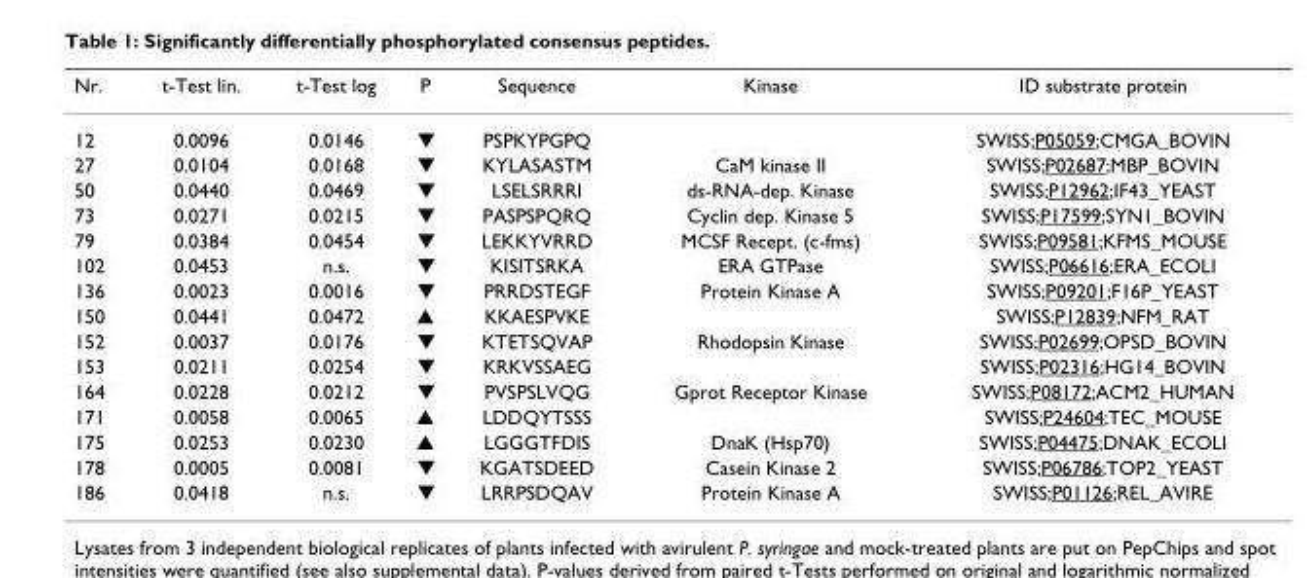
<table><thead><tr><td>Nr.</td><td>t-Test lin.</td><td>t-Test log</td><td>P</td><td>Sequence</td><td>Kinase</td><td>ID substrate protein</td></tr></thead><tbody><tr><td>12</td><td>0.0096</td><td>0.0146</td><td>▼</td><td>PSPKYPGPQ</td><td></td><td>SWISS;P05059;CMGA_BOVIN</td></tr><tr><td>27</td><td>0.0104</td><td>0.0168</td><td>▼</td><td>KYLASASTM</td><td>CaM kinase II</td><td>SWISS;P02687;MBP_BOVIN</td></tr><tr><td>50</td><td>0.0440</td><td>0.0469</td><td>▼</td><td>LSELSRRRI</td><td>ds-RNA-dep. Kinase</td><td>SWISS;P12962;IF43_YEAST</td></tr><tr><td>73</td><td>0.0271</td><td>0.0215</td><td>▼</td><td>PASPSPQRQ</td><td>Cyclin dep. Kinase 5</td><td>SWISS;P17599;SYN1_BOVIN</td></tr><tr><td>79</td><td>0.0384</td><td>0.0454</td><td>▼</td><td>LEKKYVRRD</td><td>MCSF Recept. (c-fms)</td><td>SWISS;P09581;KFMS_MOUSE</td></tr><tr><td>102</td><td>0.0453</td><td>n.s.</td><td>▼</td><td>KISITSRKA</td><td>ERA GTPase</td><td>SWISS;P06616;ERA_ECOLI</td></tr><tr><td>136</td><td>0.0023</td><td>0.0016</td><td>▼</td><td>PRRDSTEGF</td><td>Protein Kinase A</td><td>SWISS;P09201;F16P_YEAST</td></tr><tr><td>150</td><td>0.0441</td><td>0.0472</td><td>▲</td><td>KKAESPVKE</td><td></td><td>SWISS;P12839;NFM_RAT</td></tr><tr><td>152</td><td>0.0037</td><td>0.0176</td><td>▼</td><td>KTETSQVAP</td><td>Rhodopsin Kinase</td><td>SWISS;P02699;OPSD_BOVIN</td></tr><tr><td>153</td><td>0.0211</td><td>0.0254</td><td>▼</td><td>KRKVSSAEG</td><td></td><td>SWISS;P02316;HG14_BOVIN</td></tr><tr><td>164</td><td>0.0228</td><td>0.0212</td><td>▼</td><td>PVSPSLVQG</td><td>Gprot Receptor Kinase</td><td>SWISS;P08172;ACM2_HUMAN</td></tr><tr><td>171</td><td>0.0058</td><td>0.0065</td><td>▲</td><td>LDDQYTSSS</td><td></td><td>SWISS;P24604;TEC_MOUSE</td></tr><tr><td>175</td><td>0.0253</td><td>0.0230</td><td>▲</td><td>LGGGTFDIS</td><td>DnaK (Hsp70)</td><td>SWISS;P04475;DNAK_ECOLI</td></tr><tr><td>178</td><td>0.0005</td><td>0.0081</td><td>▼</td><td>KGATSDEED</td><td>Casein Kinase 2</td><td>SWISS;P06786;TOP2_YEAST</td></tr><tr><td>186</td><td>0.0418</td><td>n.s.</td><td>▼</td><td>LRRPSDQAV</td><td>Protein Kinase A</td><td>SWISS;P01126;REL_AVIRE</td></tr></tbody></table>